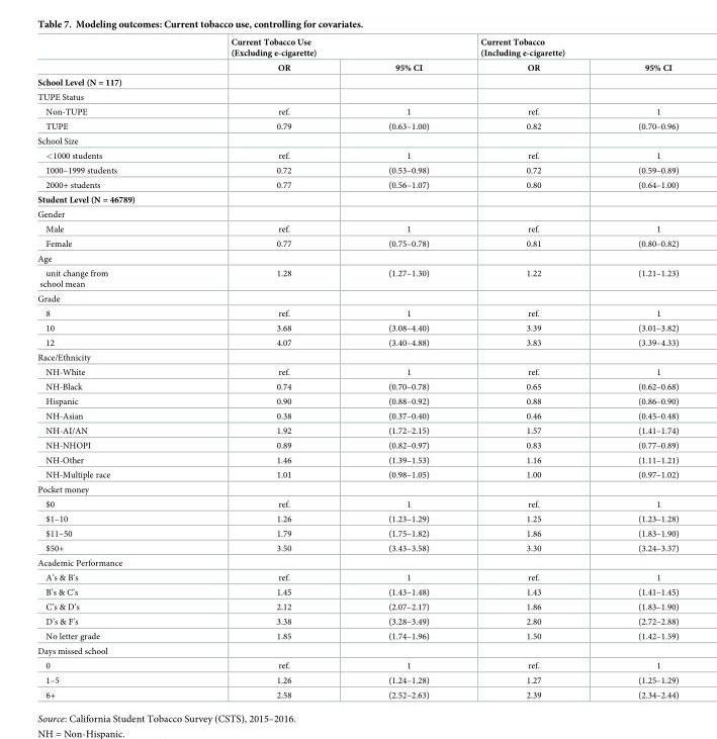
<table><thead><tr><td rowspan="2"></td><td colspan="2">Current Tobacco Use (Excluding e-cigarette)</td><td colspan="2">Current Tobacco (Including e-cigarette)</td></tr><tr><td>OR</td><td>95% CI</td><td>OR</td><td>95% CI</td></tr></thead><tbody><tr><td colspan="5">School Level (N = 117)</td></tr><tr><td colspan="5">TUPE Status</td></tr><tr><td>Non-TUPE</td><td>ref.</td><td>1</td><td>ref.</td><td>1</td></tr><tr><td>TUPE</td><td>0.79</td><td>(0.63–1.00)</td><td>0.82</td><td>(0.70–0.96)</td></tr><tr><td colspan="5">School Size</td></tr><tr><td>&lt;1000 students</td><td>ref.</td><td>1</td><td>ref.</td><td>1</td></tr><tr><td>1000–1999 students</td><td>0.72</td><td>(0.53–0.98)</td><td>0.72</td><td>(0.59–0.89)</td></tr><tr><td>2000+ students</td><td>0.77</td><td>(0.56–1.07)</td><td>0.80</td><td>(0.64–1.00)</td></tr><tr><td colspan="5">Student Level (N = 46789)</td></tr><tr><td colspan="5">Gender</td></tr><tr><td>Male</td><td>ref.</td><td>1</td><td>ref.</td><td>1</td></tr><tr><td>Female</td><td>0.77</td><td>(0.75–0.78)</td><td>0.81</td><td>(0.80–0.82)</td></tr><tr><td colspan="5">Age</td></tr><tr><td>unit change from school mean</td><td>1.28</td><td>(1.27–1.30)</td><td>1.22</td><td>(1.21–1.23)</td></tr><tr><td colspan="5">Grade</td></tr><tr><td>8</td><td>ref.</td><td>1</td><td>ref.</td><td>1</td></tr><tr><td>10</td><td>3.68</td><td>(3.08–4.40)</td><td>3.39</td><td>(3.01–3.82)</td></tr><tr><td>12</td><td>4.07</td><td>(3.40–4.88)</td><td>3.83</td><td>(3.39–4.33)</td></tr><tr><td colspan="5">Race/Ethnicity</td></tr><tr><td>NH-White</td><td>ref.</td><td>1</td><td>ref.</td><td>1</td></tr><tr><td>NH-Black</td><td>0.74</td><td>(0.70–0.78)</td><td>0.65</td><td>(0.62–0.68)</td></tr><tr><td>Hispanic</td><td>0.90</td><td>(0.88–0.92)</td><td>0.88</td><td>(0.86–0.90)</td></tr><tr><td>NH-Asian</td><td>0.38</td><td>(0.37–0.40)</td><td>0.46</td><td>(0.45–0.48)</td></tr><tr><td>NH-AI/AN</td><td>1.92</td><td>(1.72–2.15)</td><td>1.57</td><td>(1.41–1.74)</td></tr><tr><td>NH-NHOPI</td><td>0.89</td><td>(0.82–0.97)</td><td>0.83</td><td>(0.77–0.89)</td></tr><tr><td>NH-Other</td><td>1.46</td><td>(1.39–1.53)</td><td>1.16</td><td>(1.11–1.21)</td></tr><tr><td>NH-Multiple race</td><td>1.01</td><td>(0.98–1.05)</td><td>1.00</td><td>(0.97–1.02)</td></tr><tr><td colspan="5">Pocket money</td></tr><tr><td>$0</td><td>ref.</td><td>1</td><td>ref.</td><td>1</td></tr><tr><td>$1–10</td><td>1.26</td><td>(1.23–1.29)</td><td>1.25</td><td>(1.23–1.28)</td></tr><tr><td>$11–50</td><td>1.79</td><td>(1.75–1.82)</td><td>1.86</td><td>(1.83–1.90)</td></tr><tr><td>$50+</td><td>3.50</td><td>(3.43–3.58)</td><td>3.30</td><td>(3.24–3.37)</td></tr><tr><td colspan="5">Academic Performance</td></tr><tr><td>A’s &amp; B’s</td><td>ref.</td><td>1</td><td>ref.</td><td>1</td></tr><tr><td>B’s &amp; C’s</td><td>1.45</td><td>(1.43–1.48)</td><td>1.43</td><td>(1.41–1.45)</td></tr><tr><td>C’s &amp; D’s</td><td>2.12</td><td>(2.07–2.17)</td><td>1.86</td><td>(1.83–1.90)</td></tr><tr><td>D’s &amp; F’s</td><td>3.38</td><td>(3.28–3.49)</td><td>2.80</td><td>(2.72–2.88)</td></tr><tr><td>No letter grade</td><td>1.85</td><td>(1.74–1.96)</td><td>1.50</td><td>(1.42–1.59)</td></tr><tr><td colspan="5">Days missed school</td></tr><tr><td>0</td><td>ref.</td><td>1</td><td>ref.</td><td>1</td></tr><tr><td>1–5</td><td>1.26</td><td>(1.24–1.28)</td><td>1.27</td><td>(1.25–1.29)</td></tr><tr><td>6+</td><td>2.58</td><td>(2.52–2.63)</td><td>2.39</td><td>(2.34–2.44)</td></tr></tbody></table>